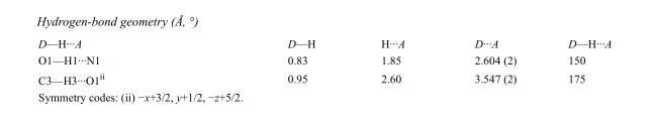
<table><tbody><tr><td>D—H···A</td><td>D—H</td><td>H···A</td><td>D···A</td><td>D—H···A</td></tr><tr><td>O1—H1···N1</td><td>0.83</td><td>1.85</td><td>2.604 (2)</td><td>150</td></tr><tr><td>C3—H3···O1<sup>ii</sup></td><td>0.95</td><td>2.60</td><td>3.547 (2)</td><td>175</td></tr></tbody></table>